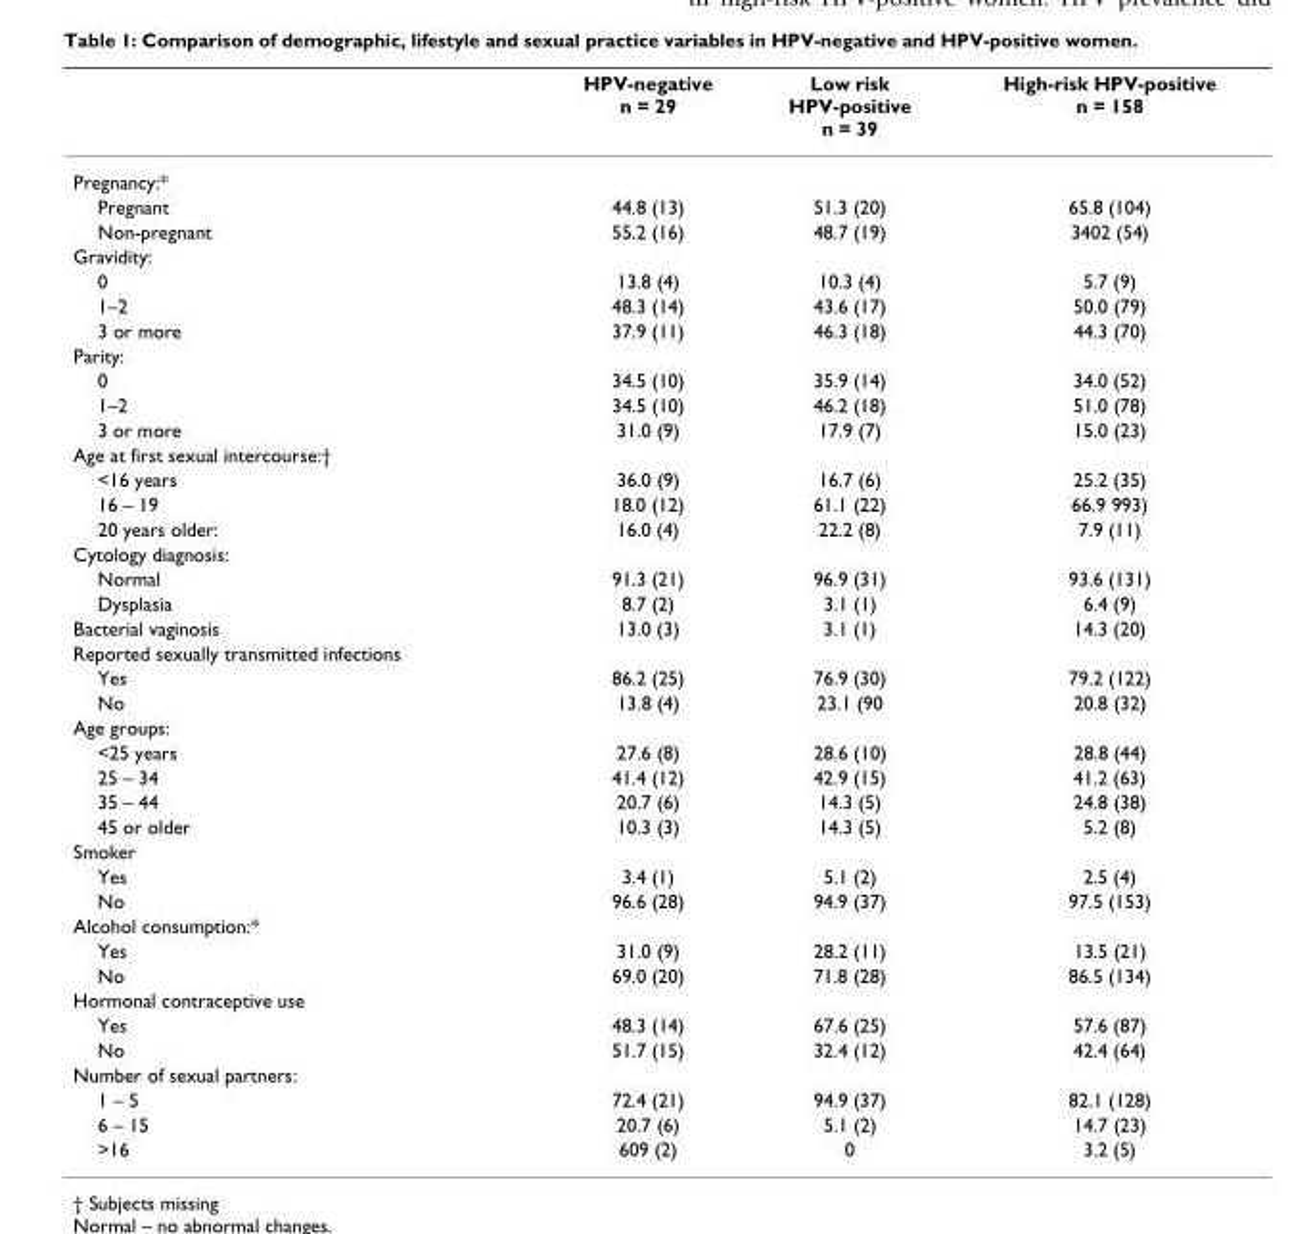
<table><thead><tr><td></td><td>HPV-negative n = 29</td><td>Low risk HPV-positive n = 39</td><td>High-risk HPV-positive n = 158</td></tr></thead><tbody><tr><td colspan="4">Pregnancy:*</td></tr><tr><td>Pregnant</td><td>44.8 (13)</td><td>51.3 (20)</td><td>65.8 (104)</td></tr><tr><td>Non-pregnant</td><td>55.2 (16)</td><td>48.7 (19)</td><td>3402 (54)</td></tr><tr><td colspan="4">Gravidity:</td></tr><tr><td>0</td><td>13.8 (4)</td><td>10.3 (4)</td><td>5.7 (9)</td></tr><tr><td>1–2</td><td>48.3 (14)</td><td>43.6 (17)</td><td>50.0 (79)</td></tr><tr><td>3 or more</td><td>37.9 (11)</td><td>46.3 (18)</td><td>44.3 (70)</td></tr><tr><td colspan="4">Parity:</td></tr><tr><td>0</td><td>34.5 (10)</td><td>35.9 (14)</td><td>34.0 (52)</td></tr><tr><td>1–2</td><td>34.5 (10)</td><td>46.2 (18)</td><td>51.0 (78)</td></tr><tr><td>3 or more</td><td>31.0 (9)</td><td>17.9 (7)</td><td>15.0 (23)</td></tr><tr><td colspan="4">Age at first sexual intercourse:†</td></tr><tr><td>&lt;16 years</td><td>36.0 (9)</td><td>16.7 (6)</td><td>25.2 (35)</td></tr><tr><td>16 – 19</td><td>18.0 (12)</td><td>61.1 (22)</td><td>66.9 993)</td></tr><tr><td>20 years older:</td><td>16.0 (4)</td><td>22.2 (8)</td><td>7.9 (11)</td></tr><tr><td colspan="4">Cytology diagnosis:</td></tr><tr><td>Normal</td><td>91.3 (21)</td><td>96.9 (31)</td><td>93.6 (131)</td></tr><tr><td>Dysplasia</td><td>8.7 (2)</td><td>3.1 (1)</td><td>6.4 (9)</td></tr><tr><td>Bacterial vaginosis</td><td>13.0 (3)</td><td>3.1 (1)</td><td>14.3 (20)</td></tr><tr><td colspan="4">Reported sexually transmitted infections</td></tr><tr><td>Yes</td><td>86.2 (25)</td><td>76.9 (30)</td><td>79.2 (122)</td></tr><tr><td>No</td><td>13.8 (4)</td><td>23.1 (90</td><td>20.8 (32)</td></tr><tr><td colspan="4">Age groups:</td></tr><tr><td>&lt;25 years</td><td>27.6 (8)</td><td>28.6 (10)</td><td>28.8 (44)</td></tr><tr><td>25 – 34</td><td>41.4 (12)</td><td>42.9 (15)</td><td>41.2 (63)</td></tr><tr><td>35 – 44</td><td>20.7 (6)</td><td>14.3 (5)</td><td>24.8 (38)</td></tr><tr><td>45 or older</td><td>10.3 (3)</td><td>14.3 (5)</td><td>5.2 (8)</td></tr><tr><td colspan="4">Smoker</td></tr><tr><td>Yes</td><td>3.4 (1)</td><td>5.1 (2)</td><td>2.5 (4)</td></tr><tr><td>No</td><td>96.6 (28)</td><td>94.9 (37)</td><td>97.5 (153)</td></tr><tr><td colspan="4">Alcohol consumption:*</td></tr><tr><td>Yes</td><td>31.0 (9)</td><td>28.2 (11)</td><td>13.5 (21)</td></tr><tr><td>No</td><td>69.0 (20)</td><td>71.8 (28)</td><td>86.5 (134)</td></tr><tr><td colspan="4">Hormonal contraceptive use</td></tr><tr><td>Yes</td><td>48.3 (14)</td><td>67.6 (25)</td><td>57.6 (87)</td></tr><tr><td>No</td><td>51.7 (15)</td><td>32.4 (12)</td><td>42.4 (64)</td></tr><tr><td colspan="4">Number of sexual partners:</td></tr><tr><td>1 – 5</td><td>72.4 (21)</td><td>94.9 (37)</td><td>82.1 (128)</td></tr><tr><td>6 – 15</td><td>20.7 (6)</td><td>5.1 (2)</td><td>14.7 (23)</td></tr><tr><td>&gt;16</td><td>609 (2)</td><td>0</td><td>3.2 (5)</td></tr></tbody></table>